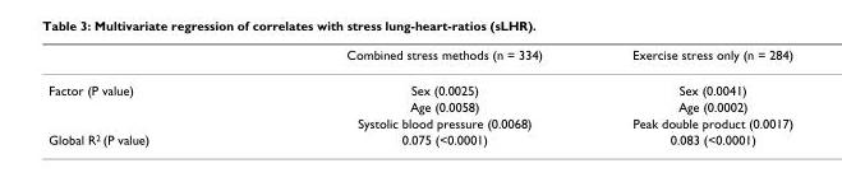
<table><thead><tr><td></td><td>Combined stress methods (n = 334)</td><td>Exercise stress only (n = 284)</td></tr></thead><tbody><tr><td rowspan="3">Factor (P value)</td><td>Sex (0.0025)</td><td>Sex (0.0041)</td></tr><tr><td>Age (0.0058)</td><td>Age (0.0002)</td></tr><tr><td>Systolic blood pressure (0.0068)</td><td>Peak double product (0.0017)</td></tr><tr><td>Global R<sup>2</sup> (P value)</td><td>0.075 (&lt;0.0001)</td><td>0.083 (&lt;0.0001)</td></tr></tbody></table>